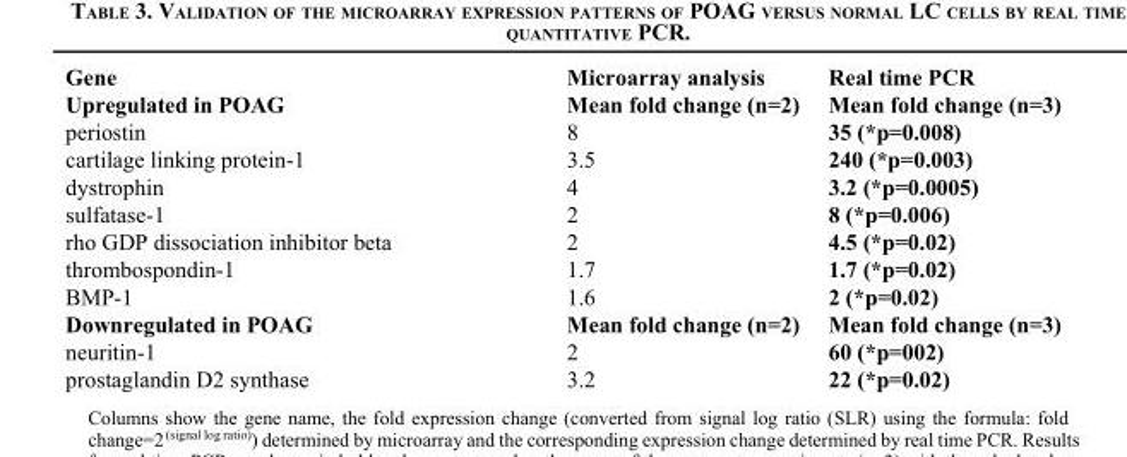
<table><thead><tr><td>Gene</td><td>Microarray analysis</td><td>Real time PCR</td></tr></thead><tbody><tr><td>Upregulated in POAG</td><td>Mean fold change (n=2)</td><td>Mean fold change (n=3)</td></tr><tr><td>periostin</td><td>8</td><td>35 (*p=0.008)</td></tr><tr><td>cartilage linking protein-1</td><td>3.5</td><td>240 (*p=0.003)</td></tr><tr><td>dystrophin</td><td>4</td><td>3.2 (*p=0.0005)</td></tr><tr><td>sulfatase-1</td><td>2</td><td>8 (*p=0.006)</td></tr><tr><td>rho GDP dissociation inhibitor beta</td><td>2</td><td>4.5 (*p=0.02)</td></tr><tr><td>thrombospondin-1</td><td>1.7</td><td>1.7 (*p=0.02)</td></tr><tr><td>BMP-1</td><td>1.6</td><td>2 (*p=0.02)</td></tr><tr><td>Downregulated in POAG</td><td>Mean fold change (n=2)</td><td>Mean fold change (n=3)</td></tr><tr><td>neuritin-1</td><td>2</td><td>60 (*p=002)</td></tr><tr><td>prostaglandin D2 synthase</td><td>3.2</td><td>22 (*p=0.02)</td></tr></tbody></table>